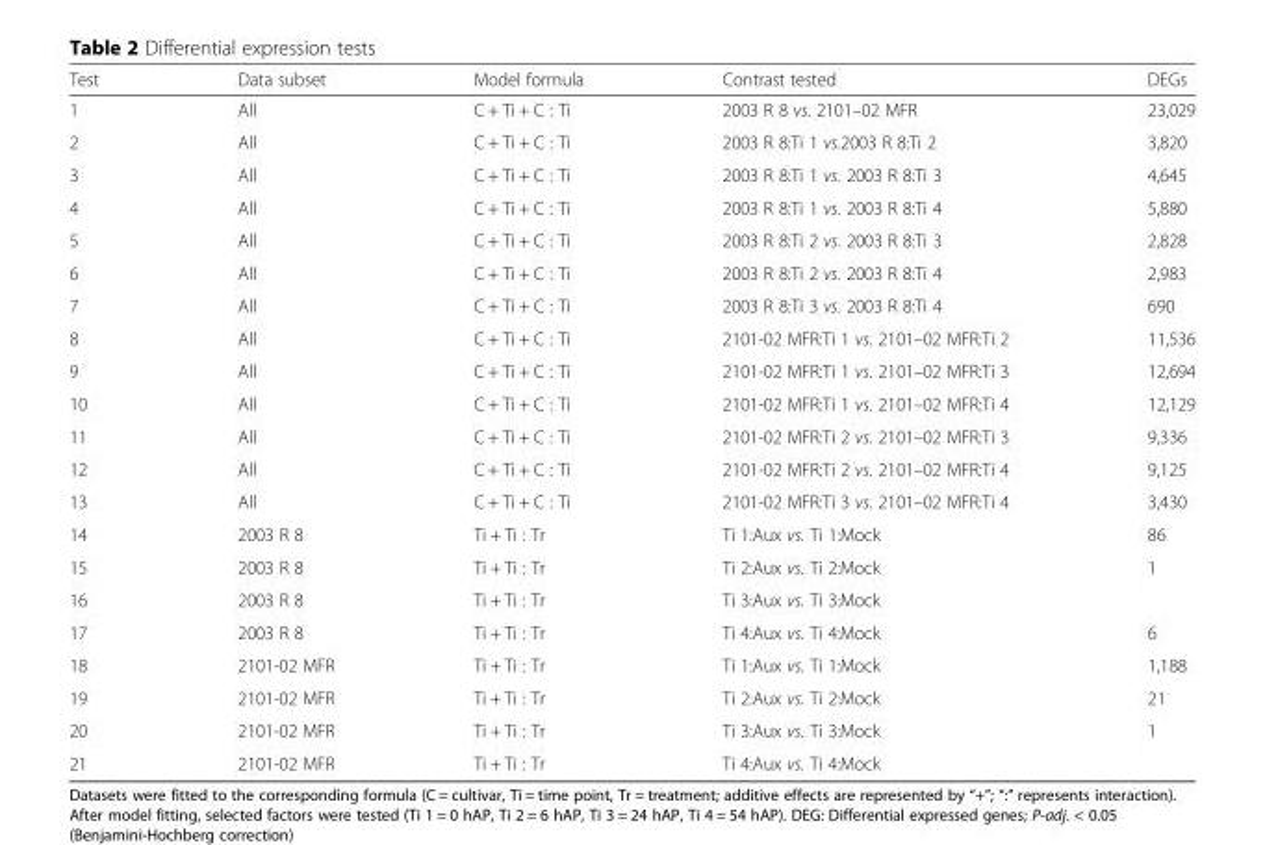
<table><thead><tr><td>Test</td><td>Data subset</td><td>Model formula</td><td>Contrast tested</td><td>DEGs</td></tr></thead><tbody><tr><td>1</td><td>All</td><td>C + Ti + C : Ti</td><td>2003 R 8 vs. 2101–02 MFR</td><td>23,029</td></tr><tr><td>2</td><td>All</td><td>C + Ti + C : Ti</td><td>2003 R 8:Ti 1 vs.2003 R 8:Ti 2</td><td>3,820</td></tr><tr><td>3</td><td>All</td><td>C + Ti + C : Ti</td><td>2003 R 8:Ti 1 vs. 2003 R 8:Ti 3</td><td>4,645</td></tr><tr><td>4</td><td>All</td><td>C + Ti + C : Ti</td><td>2003 R 8:Ti 1 vs. 2003 R 8:Ti 4</td><td>5,880</td></tr><tr><td>5</td><td>All</td><td>C + Ti + C : Ti</td><td>2003 R 8:Ti 2 vs. 2003 R 8:Ti 3</td><td>2,828</td></tr><tr><td>6</td><td>All</td><td>C + Ti + C : Ti</td><td>2003 R 8:Ti 2 vs. 2003 R 8:Ti 4</td><td>2,983</td></tr><tr><td>7</td><td>All</td><td>C + Ti + C : Ti</td><td>2003 R 8:Ti 3 vs. 2003 R 8:Ti 4</td><td>690</td></tr><tr><td>8</td><td>All</td><td>C + Ti + C : Ti</td><td>2101-02 MFR:Ti 1 vs. 2101–02 MFR:Ti 2</td><td>11,536</td></tr><tr><td>9</td><td>All</td><td>C + Ti + C : Ti</td><td>2101-02 MFR:Ti 1 vs. 2101–02 MFR:Ti 3</td><td>12,694</td></tr><tr><td>10</td><td>All</td><td>C + Ti + C : Ti</td><td>2101-02 MFR:Ti 1 vs. 2101–02 MFR:Ti 4</td><td>12,129</td></tr><tr><td>11</td><td>All</td><td>C + Ti + C : Ti</td><td>2101-02 MFR:Ti 2 vs. 2101–02 MFR:Ti 3</td><td>9,336</td></tr><tr><td>12</td><td>All</td><td>C + Ti + C : Ti</td><td>2101-02 MFR:Ti 2 vs. 2101–02 MFR:Ti 4</td><td>9,125</td></tr><tr><td>13</td><td>All</td><td>C + Ti + C : Ti</td><td>2101-02 MFR:Ti 3 vs. 2101–02 MFR:Ti 4</td><td>3,430</td></tr><tr><td>14</td><td>2003 R 8</td><td>Ti + Ti : Tr</td><td>Ti 1:Aux vs. Ti 1:Mock</td><td>86</td></tr><tr><td>15</td><td>2003 R 8</td><td>Ti + Ti : Tr</td><td>Ti 2:Aux vs. Ti 2:Mock</td><td>1</td></tr><tr><td>16</td><td>2003 R 8</td><td>Ti + Ti : Tr</td><td>Ti 3:Aux vs. Ti 3:Mock</td><td></td></tr><tr><td>17</td><td>2003 R 8</td><td>Ti + Ti : Tr</td><td>Ti 4:Aux vs. Ti 4:Mock</td><td>6</td></tr><tr><td>18</td><td>2101-02 MFR</td><td>Ti + Ti : Tr</td><td>Ti 1:Aux vs. Ti 1:Mock</td><td>1,188</td></tr><tr><td>19</td><td>2101-02 MFR</td><td>Ti + Ti : Tr</td><td>Ti 2:Aux vs. Ti 2:Mock</td><td>21</td></tr><tr><td>20</td><td>2101-02 MFR</td><td>Ti + Ti : Tr</td><td>Ti 3:Aux vs. Ti 3:Mock</td><td>1</td></tr><tr><td>21</td><td>2101-02 MFR</td><td>Ti + Ti : Tr</td><td>Ti 4:Aux vs. Ti 4:Mock</td><td></td></tr></tbody></table>